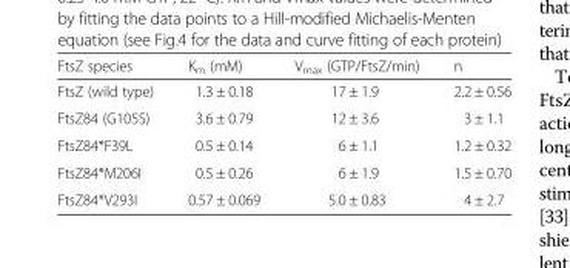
<table><thead><tr><td>FtsZ species</td><td>K<sub>m</sub> (mM)</td><td>V<sub>max</sub> (GTP/FtsZ/min)</td><td>n</td></tr></thead><tbody><tr><td>FtsZ (wild type)</td><td>1.3 ± 0.18</td><td>17 ± 1.9</td><td>2.2 ± 0.56</td></tr><tr><td>FtsZ84 (G105S)</td><td>3.6 ± 0.79</td><td>12 ± 3.6</td><td>3 ± 1.1</td></tr><tr><td>FtsZ84*F39L</td><td>0.5 ± 0.14</td><td>6 ± 1.1</td><td>1.2 ± 0.32</td></tr><tr><td>FtsZ84*M206I</td><td>0.5 ± 0.26</td><td>6 ± 1.9</td><td>1.5 ± 0.70</td></tr><tr><td>FtsZ84*V293I</td><td>0.57 ± 0.069</td><td>5.0 ± 0.83</td><td>4 ± 2.7</td></tr></tbody></table>